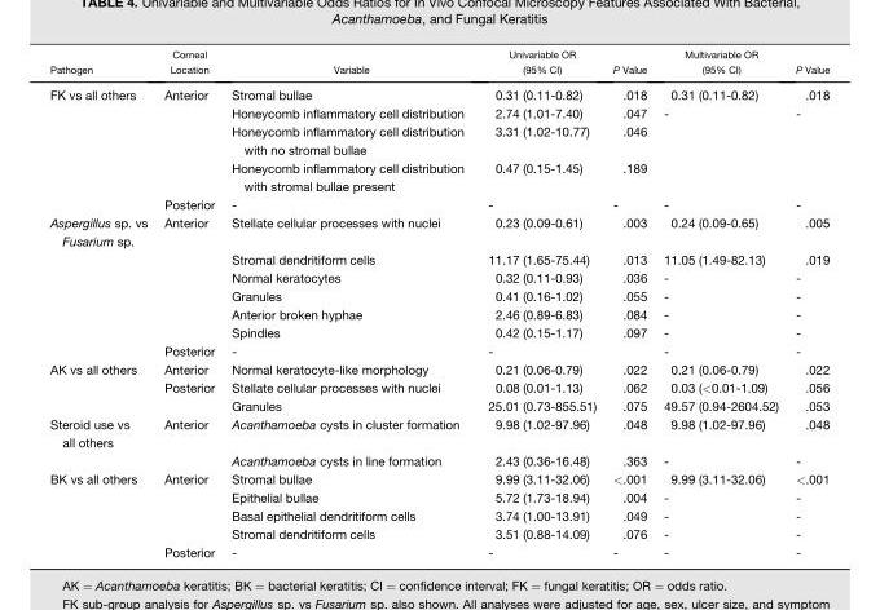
<table><thead><tr><td>Pathogen</td><td>Corneal Location</td><td>Variable</td><td>Univariable OR (95% CI)</td><td>P Value</td><td>Multivariable OR (95% CI)</td><td>P Value</td></tr></thead><tbody><tr><td rowspan="5">FK vs all others</td><td>Anterior</td><td>Stromal bullae</td><td>0.31 (0.11-0.82)</td><td>.018</td><td>0.31 (0.11-0.82)</td><td>.018</td></tr><tr><td></td><td>Honeycomb inflammatory cell distribution</td><td>2.74 (1.01-7.40)</td><td>.047</td><td>-</td><td>-</td></tr><tr><td></td><td>Honeycomb inflammatory cell distribution with no stromal bullae</td><td>3.31 (1.02-10.77)</td><td>.046</td><td></td><td></td></tr><tr><td></td><td>Honeycomb inflammatory cell distribution with stromal bullae present</td><td>0.47 (0.15-1.45)</td><td>.189</td><td></td><td></td></tr><tr><td>Posterior</td><td>-</td><td>-</td><td>-</td><td>-</td><td>-</td></tr><tr><td rowspan="7">Aspergillus sp. vs Fusarium sp.</td><td>Anterior</td><td>Stellate cellular processes with nuclei</td><td>0.23 (0.09-0.61)</td><td>.003</td><td>0.24 (0.09-0.65)</td><td>.005</td></tr><tr><td></td><td>Stromal dendritiform cells</td><td>11.17 (1.65-75.44)</td><td>.013</td><td>11.05 (1.49-82.13)</td><td>.019</td></tr><tr><td></td><td>Normal keratocytes</td><td>0.32 (0.11-0.93)</td><td>.036</td><td>-</td><td>-</td></tr><tr><td></td><td>Granules</td><td>0.41 (0.16-1.02)</td><td>.055</td><td>-</td><td>-</td></tr><tr><td></td><td>Anterior broken hyphae</td><td>2.46 (0.89-6.83)</td><td>.084</td><td>-</td><td>-</td></tr><tr><td></td><td>Spindles</td><td>0.42 (0.15-1.17)</td><td>.097</td><td>-</td><td>-</td></tr><tr><td>Posterior</td><td>-</td><td>-</td><td></td><td>-</td><td>-</td></tr><tr><td rowspan="3">AK vs all others</td><td>Anterior</td><td>Normal keratocyte-like morphology</td><td>0.21 (0.06-0.79)</td><td>.022</td><td>0.21 (0.06-0.79)</td><td>.022</td></tr><tr><td>Posterior</td><td>Stellate cellular processes with nuclei</td><td>0.08 (0.01-1.13)</td><td>.062</td><td>0.03 (&lt;0.01-1.09)</td><td>.056</td></tr><tr><td></td><td>Granules</td><td>25.01 (0.73-855.51)</td><td>.075</td><td>49.57 (0.94-2604.52)</td><td>.053</td></tr><tr><td rowspan="2">Steroid use vs all others</td><td>Anterior</td><td>Acanthamoeba cysts in cluster formation</td><td>9.98 (1.02-97.96)</td><td>.048</td><td>9.98 (1.02-97.96)</td><td>.048</td></tr><tr><td></td><td>Acanthamoeba cysts in line formation</td><td>2.43 (0.36-16.48)</td><td>.363</td><td>-</td><td>-</td></tr><tr><td rowspan="5">BK vs all others</td><td>Anterior</td><td>Stromal bullae</td><td>9.99 (3.11-32.06)</td><td>&lt;.001</td><td>9.99 (3.11-32.06)</td><td>&lt;.001</td></tr><tr><td></td><td>Epithelial bullae</td><td>5.72 (1.73-18.94)</td><td>.004</td><td>-</td><td>-</td></tr><tr><td></td><td>Basal epithelial dendritiform cells</td><td>3.74 (1.00-13.91)</td><td>.049</td><td>-</td><td>-</td></tr><tr><td></td><td>Stromal dendritiform cells</td><td>3.51 (0.88-14.09)</td><td>.076</td><td>-</td><td>-</td></tr><tr><td>Posterior</td><td>-</td><td>-</td><td>-</td><td>-</td><td>-</td></tr></tbody></table>